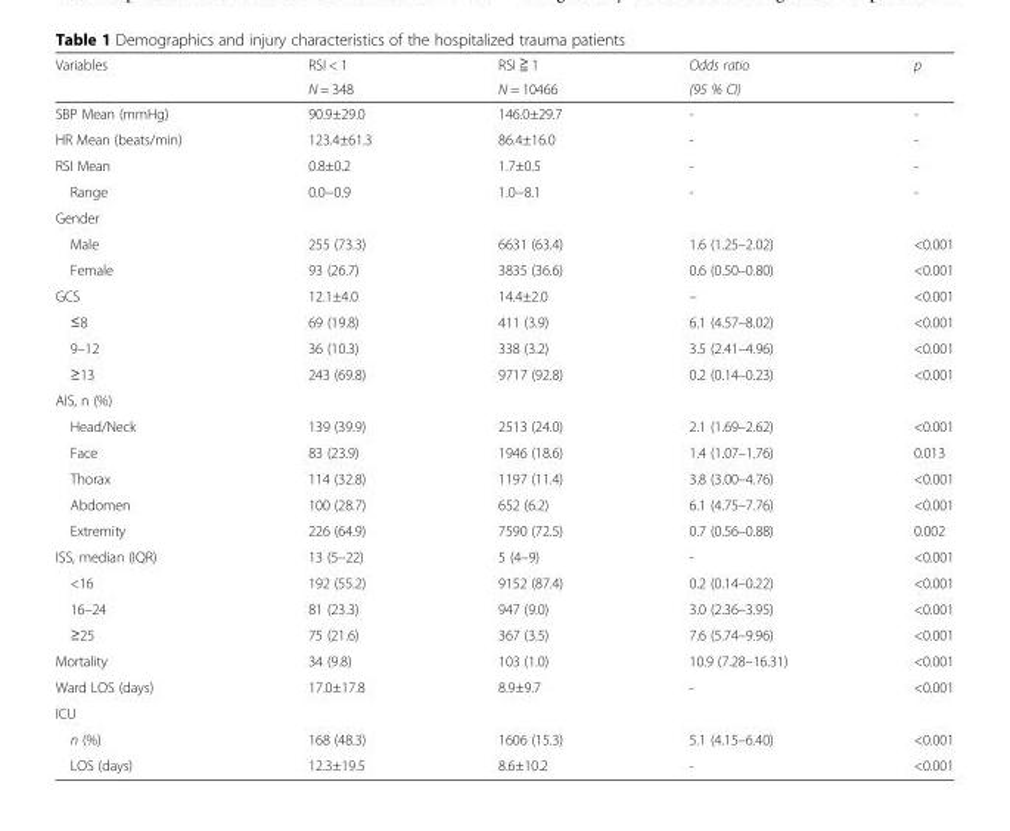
<table><thead><tr><td rowspan="2">Variables</td><td rowspan="2">RSI &lt; 1 N = 348</td><td rowspan="2">RSI ≧ 1 N = 10466</td><td rowspan="2">Odds ratio (95 % CI)</td><td rowspan="2">p</td></tr><tr></tr></thead><tbody><tr><td>SBP Mean (mmHg)</td><td>90.9±29.0</td><td>146.0±29.7</td><td>-</td><td>-</td></tr><tr><td>HR Mean (beats/min)</td><td>123.4±61.3</td><td>86.4±16.0</td><td>-</td><td>-</td></tr><tr><td>RSI Mean</td><td>0.8±0.2</td><td>1.7±0.5</td><td>-</td><td>-</td></tr><tr><td>Range</td><td>0.0−0.9</td><td>1.0−8.1</td><td>-</td><td>-</td></tr><tr><td colspan="5">Gender</td></tr><tr><td>Male</td><td>255 (73.3)</td><td>6631 (63.4)</td><td>1.6 (1.25–2.02)</td><td>&lt;0.001</td></tr><tr><td>Female</td><td>93 (26.7)</td><td>3835 (36.6)</td><td>0.6 (0.50–0.80)</td><td>&lt;0.001</td></tr><tr><td>GCS</td><td>12.1±4.0</td><td>14.4±2.0</td><td>–</td><td>&lt;0.001</td></tr><tr><td>≤8</td><td>69 (19.8)</td><td>411 (3.9)</td><td>6.1 (4.57–8.02)</td><td>&lt;0.001</td></tr><tr><td>9–12</td><td>36 (10.3)</td><td>338 (3.2)</td><td>3.5 (2.41–4.96)</td><td>&lt;0.001</td></tr><tr><td>≥13</td><td>243 (69.8)</td><td>9717 (92.8)</td><td>0.2 (0.14–0.23)</td><td>&lt;0.001</td></tr><tr><td colspan="5">AIS, n (%)</td></tr><tr><td>Head/Neck</td><td>139 (39.9)</td><td>2513 (24.0)</td><td>2.1 (1.69–2.62)</td><td>&lt;0.001</td></tr><tr><td>Face</td><td>83 (23.9)</td><td>1946 (18.6)</td><td>1.4 (1.07–1.76)</td><td>0.013</td></tr><tr><td>Thorax</td><td>114 (32.8)</td><td>1197 (11.4)</td><td>3.8 (3.00–4.76)</td><td>&lt;0.001</td></tr><tr><td>Abdomen</td><td>100 (28.7)</td><td>652 (6.2)</td><td>6.1 (4.75–7.76)</td><td>&lt;0.001</td></tr><tr><td>Extremity</td><td>226 (64.9)</td><td>7590 (72.5)</td><td>0.7 (0.56–0.88)</td><td>0.002</td></tr><tr><td>ISS, median (IQR)</td><td>13 (5–22)</td><td>5 (4–9)</td><td>-</td><td>&lt;0.001</td></tr><tr><td>&lt;16</td><td>192 (55.2)</td><td>9152 (87.4)</td><td>0.2 (0.14–0.22)</td><td>&lt;0.001</td></tr><tr><td>16–24</td><td>81 (23.3)</td><td>947 (9.0)</td><td>3.0 (2.36–3.95)</td><td>&lt;0.001</td></tr><tr><td>≥25</td><td>75 (21.6)</td><td>367 (3.5)</td><td>7.6 (5.74–9.96)</td><td>&lt;0.001</td></tr><tr><td>Mortality</td><td>34 (9.8)</td><td>103 (1.0)</td><td>10.9 (7.28–16.31)</td><td>&lt;0.001</td></tr><tr><td>Ward LOS (days)</td><td>17.0±17.8</td><td>8.9±9.7</td><td>-</td><td>&lt;0.001</td></tr><tr><td colspan="5">ICU</td></tr><tr><td>n (%)</td><td>168 (48.3)</td><td>1606 (15.3)</td><td>5.1 (4.15–6.40)</td><td>&lt;0.001</td></tr><tr><td>LOS (days)</td><td>12.3±19.5</td><td>8.6±10.2</td><td>-</td><td>&lt;0.001</td></tr></tbody></table>